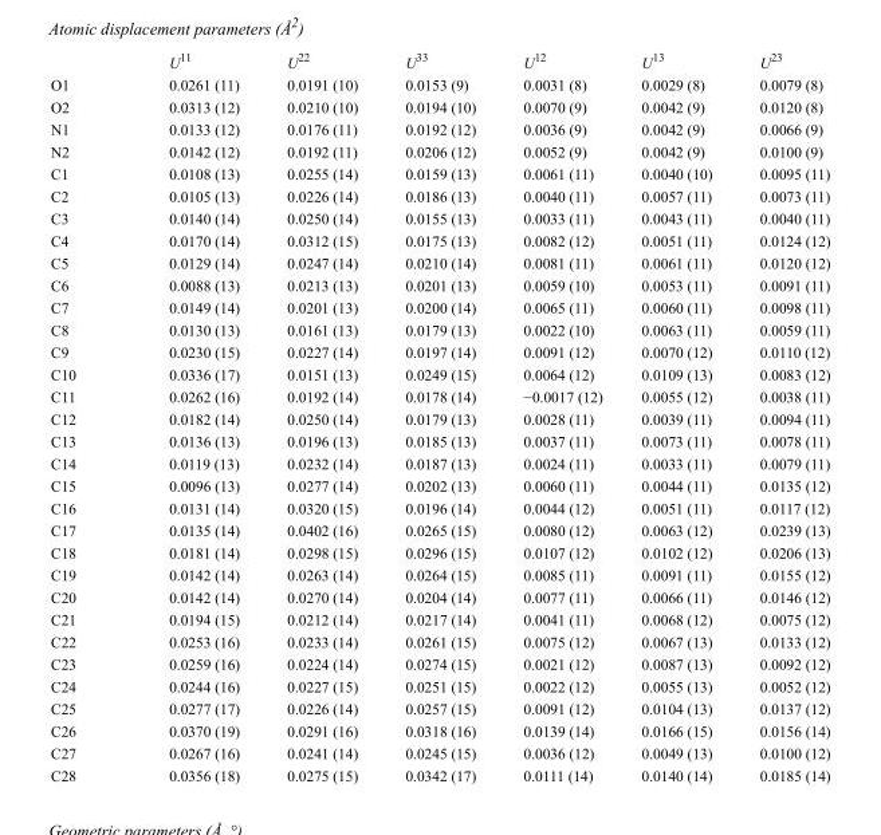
<table><thead><tr><td></td><td>U<sup>11</sup></td><td>U<sup>22</sup></td><td>U<sup>33</sup></td><td>U<sup>12</sup></td><td>U<sup>13</sup></td><td>U<sup>23</sup></td></tr></thead><tbody><tr><td>O1</td><td>0.0261 (11)</td><td>0.0191 (10)</td><td>0.0153 (9)</td><td>0.0031 (8)</td><td>0.0029 (8)</td><td>0.0079 (8)</td></tr><tr><td>O2</td><td>0.0313 (12)</td><td>0.0210 (10)</td><td>0.0194 (10)</td><td>0.0070 (9)</td><td>0.0042 (9)</td><td>0.0120 (8)</td></tr><tr><td>N1</td><td>0.0133 (12)</td><td>0.0176 (11)</td><td>0.0192 (12)</td><td>0.0036 (9)</td><td>0.0042 (9)</td><td>0.0066 (9)</td></tr><tr><td>N2</td><td>0.0142 (12)</td><td>0.0192 (11)</td><td>0.0206 (12)</td><td>0.0052 (9)</td><td>0.0042 (9)</td><td>0.0100 (9)</td></tr><tr><td>C1</td><td>0.0108 (13)</td><td>0.0255 (14)</td><td>0.0159 (13)</td><td>0.0061 (11)</td><td>0.0040 (10)</td><td>0.0095 (11)</td></tr><tr><td>C2</td><td>0.0105 (13)</td><td>0.0226 (14)</td><td>0.0186 (13)</td><td>0.0040 (11)</td><td>0.0057 (11)</td><td>0.0073 (11)</td></tr><tr><td>C3</td><td>0.0140 (14)</td><td>0.0250 (14)</td><td>0.0155 (13)</td><td>0.0033 (11)</td><td>0.0043 (11)</td><td>0.0040 (11)</td></tr><tr><td>C4</td><td>0.0170 (14)</td><td>0.0312 (15)</td><td>0.0175 (13)</td><td>0.0082 (12)</td><td>0.0051 (11)</td><td>0.0124 (12)</td></tr><tr><td>C5</td><td>0.0129 (14)</td><td>0.0247 (14)</td><td>0.0210 (14)</td><td>0.0081 (11)</td><td>0.0061 (11)</td><td>0.0120 (12)</td></tr><tr><td>C6</td><td>0.0088 (13)</td><td>0.0213 (13)</td><td>0.0201 (13)</td><td>0.0059 (10)</td><td>0.0053 (11)</td><td>0.0091 (11)</td></tr><tr><td>C7</td><td>0.0149 (14)</td><td>0.0201 (13)</td><td>0.0200 (14)</td><td>0.0065 (11)</td><td>0.0060 (11)</td><td>0.0098 (11)</td></tr><tr><td>C8</td><td>0.0130 (13)</td><td>0.0161 (13)</td><td>0.0179 (13)</td><td>0.0022 (10)</td><td>0.0063 (11)</td><td>0.0059 (11)</td></tr><tr><td>C9</td><td>0.0230 (15)</td><td>0.0227 (14)</td><td>0.0197 (14)</td><td>0.0091 (12)</td><td>0.0070 (12)</td><td>0.0110 (12)</td></tr><tr><td>C10</td><td>0.0336 (17)</td><td>0.0151 (13)</td><td>0.0249 (15)</td><td>0.0064 (12)</td><td>0.0109 (13)</td><td>0.0083 (12)</td></tr><tr><td>C11</td><td>0.0262 (16)</td><td>0.0192 (14)</td><td>0.0178 (14)</td><td>−0.0017 (12)</td><td>0.0055 (12)</td><td>0.0038 (11)</td></tr><tr><td>C12</td><td>0.0182 (14)</td><td>0.0250 (14)</td><td>0.0179 (13)</td><td>0.0028 (11)</td><td>0.0039 (11)</td><td>0.0094 (11)</td></tr><tr><td>C13</td><td>0.0136 (13)</td><td>0.0196 (13)</td><td>0.0185 (13)</td><td>0.0037 (11)</td><td>0.0073 (11)</td><td>0.0078 (11)</td></tr><tr><td>C14</td><td>0.0119 (13)</td><td>0.0232 (14)</td><td>0.0187 (13)</td><td>0.0024 (11)</td><td>0.0033 (11)</td><td>0.0079 (11)</td></tr><tr><td>C15</td><td>0.0096 (13)</td><td>0.0277 (14)</td><td>0.0202 (13)</td><td>0.0060 (11)</td><td>0.0044 (11)</td><td>0.0135 (12)</td></tr><tr><td>C16</td><td>0.0131 (14)</td><td>0.0320 (15)</td><td>0.0196 (14)</td><td>0.0044 (12)</td><td>0.0051 (11)</td><td>0.0117 (12)</td></tr><tr><td>C17</td><td>0.0135 (14)</td><td>0.0402 (16)</td><td>0.0265 (15)</td><td>0.0080 (12)</td><td>0.0063 (12)</td><td>0.0239 (13)</td></tr><tr><td>C18</td><td>0.0181 (14)</td><td>0.0298 (15)</td><td>0.0296 (15)</td><td>0.0107 (12)</td><td>0.0102 (12)</td><td>0.0206 (13)</td></tr><tr><td>C19</td><td>0.0142 (14)</td><td>0.0263 (14)</td><td>0.0264 (15)</td><td>0.0085 (11)</td><td>0.0091 (11)</td><td>0.0155 (12)</td></tr><tr><td>C20</td><td>0.0142 (14)</td><td>0.0270 (14)</td><td>0.0204 (14)</td><td>0.0077 (11)</td><td>0.0066 (11)</td><td>0.0146 (12)</td></tr><tr><td>C21</td><td>0.0194 (15)</td><td>0.0212 (14)</td><td>0.0217 (14)</td><td>0.0041 (11)</td><td>0.0068 (12)</td><td>0.0075 (12)</td></tr><tr><td>C22</td><td>0.0253 (16)</td><td>0.0233 (14)</td><td>0.0261 (15)</td><td>0.0075 (12)</td><td>0.0067 (13)</td><td>0.0133 (12)</td></tr><tr><td>C23</td><td>0.0259 (16)</td><td>0.0224 (14)</td><td>0.0274 (15)</td><td>0.0021 (12)</td><td>0.0087 (13)</td><td>0.0092 (12)</td></tr><tr><td>C24</td><td>0.0244 (16)</td><td>0.0227 (15)</td><td>0.0251 (15)</td><td>0.0022 (12)</td><td>0.0055 (13)</td><td>0.0052 (12)</td></tr><tr><td>C25</td><td>0.0277 (17)</td><td>0.0226 (14)</td><td>0.0257 (15)</td><td>0.0091 (12)</td><td>0.0104 (13)</td><td>0.0137 (12)</td></tr><tr><td>C26</td><td>0.0370 (19)</td><td>0.0291 (16)</td><td>0.0318 (16)</td><td>0.0139 (14)</td><td>0.0166 (15)</td><td>0.0156 (14)</td></tr><tr><td>C27</td><td>0.0267 (16)</td><td>0.0241 (14)</td><td>0.0245 (15)</td><td>0.0036 (12)</td><td>0.0049 (13)</td><td>0.0100 (12)</td></tr><tr><td>C28</td><td>0.0356 (18)</td><td>0.0275 (15)</td><td>0.0342 (17)</td><td>0.0111 (14)</td><td>0.0140 (14)</td><td>0.0185 (14)</td></tr></tbody></table>